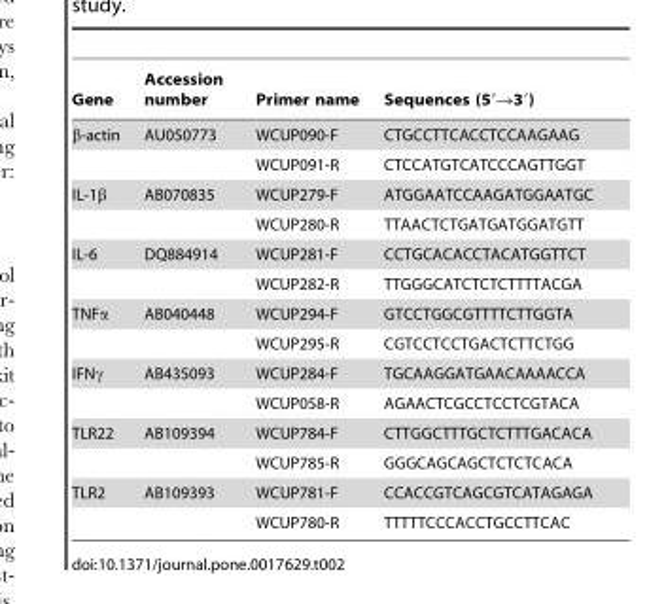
<table><thead><tr><td>Gene</td><td>Accession number</td><td>Primer name</td><td>Sequences (5′→3′)</td></tr></thead><tbody><tr><td rowspan="2">β-actin</td><td>AU050773</td><td>WCUP090-F</td><td>CTGCCTTCACCTCCAAGAAG</td></tr><tr><td></td><td>WCUP091-R</td><td>CTCCATGTCATCCCAGTTGGT</td></tr><tr><td rowspan="2">IL-1β</td><td>AB070835</td><td>WCUP279-F</td><td>ATGGAATCCAAGATGGAATGC</td></tr><tr><td></td><td>WCUP280-R</td><td>TTAACTCTGATGATGGATGTT</td></tr><tr><td rowspan="2">IL-6</td><td>DQ884914</td><td>WCUP281-F</td><td>CCTGCACACCTACATGGTTCT</td></tr><tr><td></td><td>WCUP282-R</td><td>TTGGGCATCTCTCTTTTACGA</td></tr><tr><td rowspan="2">TNFα</td><td>AB040448</td><td>WCUP294-F</td><td>GTCCTGGCGTTTTCTTGGTA</td></tr><tr><td></td><td>WCUP295-R</td><td>CGTCCTCCTGACTCTTCTGG</td></tr><tr><td rowspan="2">IFNγ</td><td>AB435093</td><td>WCUP284-F</td><td>TGCAAGGATGAACAAAACCA</td></tr><tr><td></td><td>WCUP058-R</td><td>AGAACTCGCCTCCTCGTACA</td></tr><tr><td rowspan="2">TLR22</td><td>AB109394</td><td>WCUP784-F</td><td>CTTGGCTTTGCTCTTTGACACA</td></tr><tr><td></td><td>WCUP785-R</td><td>GGGCAGCAGCTCTCTCACA</td></tr><tr><td rowspan="2">TLR2</td><td>AB109393</td><td>WCUP781-F</td><td>CCACCGTCAGCGTCATAGAGA</td></tr><tr><td></td><td>WCUP780-R</td><td>TTTTTCCCACCTGCCTTCAC</td></tr></tbody></table>